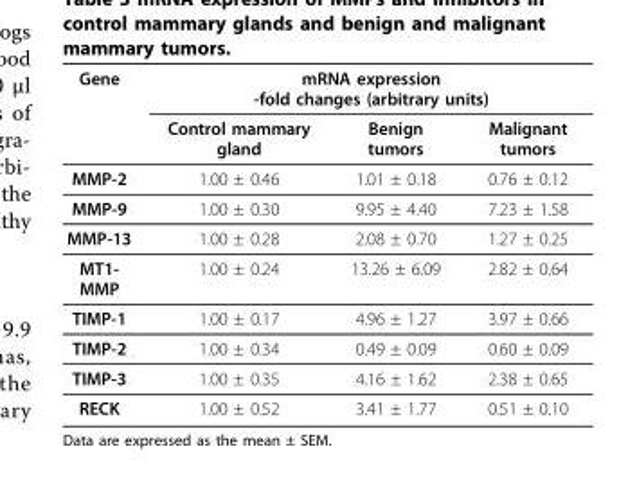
<table><thead><tr><td rowspan="2">Gene</td><td colspan="3">mRNA expression -fold changes (arbitrary units)</td></tr><tr><td>Control mammary gland</td><td>Benign tumors</td><td>Malignant tumors</td></tr></thead><tbody><tr><td>MMP-2</td><td>1.00 ± 0.46</td><td>1.01 ± 0.18</td><td>0.76 ± 0.12</td></tr><tr><td>MMP-9</td><td>1.00 ± 0.30</td><td>9.95 ± 4.40</td><td>7.23 ± 1.58</td></tr><tr><td>MMP-13</td><td>1.00 ± 0.28</td><td>2.08 ± 0.70</td><td>1.27 ± 0.25</td></tr><tr><td>MT1- MMP</td><td>1.00 ± 0.24</td><td>13.26 ± 6.09</td><td>2.82 ± 0.64</td></tr><tr><td>TIMP-1</td><td>1.00 ± 0.17</td><td>4.96 ± 1.27</td><td>3.97 ± 0.66</td></tr><tr><td>TIMP-2</td><td>1.00 ± 0.34</td><td>0.49 ± 0.09</td><td>0.60 ± 0.09</td></tr><tr><td>TIMP-3</td><td>1.00 ± 0.35</td><td>4.16 ± 1.62</td><td>2.38 ± 0.65</td></tr><tr><td>RECK</td><td>1.00 ± 0.52</td><td>3.41 ± 1.77</td><td>0.51 ± 0.10</td></tr></tbody></table>